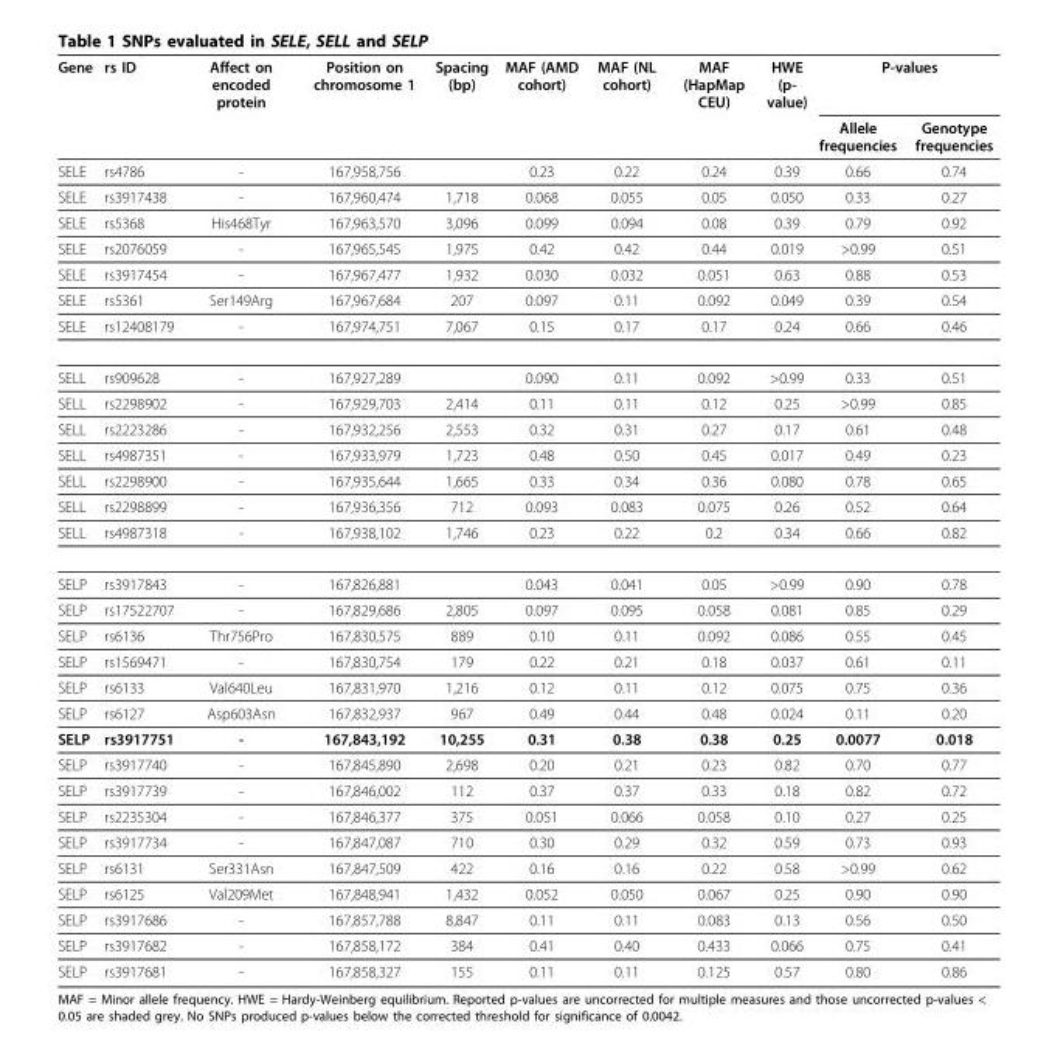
<table><thead><tr><td rowspan="2">Gene</td><td rowspan="2">rs ID</td><td rowspan="2">Affect on encoded protein</td><td rowspan="2">Position on chromosome 1</td><td rowspan="2">Spacing (bp)</td><td rowspan="2">MAF (AMD cohort)</td><td rowspan="2">MAF (NL cohort)</td><td rowspan="2">MAF (HapMap CEU)</td><td rowspan="2">HWE (p- value)</td><td colspan="2">P-values</td></tr><tr><td>Allele frequencies</td><td>Genotype frequencies</td></tr></thead><tbody><tr><td>SELE</td><td>rs4786</td><td>-</td><td>167,958,756</td><td></td><td>0.23</td><td>0.22</td><td>0.24</td><td>0.39</td><td>0.66</td><td>0.74</td></tr><tr><td>SELE</td><td>rs3917438</td><td>-</td><td>167,960,474</td><td>1,718</td><td>0.068</td><td>0.055</td><td>0.05</td><td>0.050</td><td>0.33</td><td>0.27</td></tr><tr><td>SELE</td><td>rs5368</td><td>His468Tyr</td><td>167,963,570</td><td>3,096</td><td>0.099</td><td>0.094</td><td>0.08</td><td>0.39</td><td>0.79</td><td>0.92</td></tr><tr><td>SELE</td><td>rs2076059</td><td>-</td><td>167,965,545</td><td>1,975</td><td>0.42</td><td>0.42</td><td>0.44</td><td>0.019</td><td>&gt;0.99</td><td>0.51</td></tr><tr><td>SELE</td><td>rs3917454</td><td>-</td><td>167,967,477</td><td>1,932</td><td>0.030</td><td>0.032</td><td>0.051</td><td>0.63</td><td>0.88</td><td>0.53</td></tr><tr><td>SELE</td><td>rs5361</td><td>Ser149Arg</td><td>167,967,684</td><td>207</td><td>0.097</td><td>0.11</td><td>0.092</td><td>0.049</td><td>0.39</td><td>0.54</td></tr><tr><td>SELE</td><td>rs12408179</td><td>-</td><td>167,974,751</td><td>7,067</td><td>0.15</td><td>0.17</td><td>0.17</td><td>0.24</td><td>0.66</td><td>0.46</td></tr><tr><td>SELL</td><td>rs909628</td><td>-</td><td>167,927,289</td><td></td><td>0.090</td><td>0.11</td><td>0.092</td><td>&gt;0.99</td><td>0.33</td><td>0.51</td></tr><tr><td>SELL</td><td>rs2298902</td><td>-</td><td>167,929,703</td><td>2,414</td><td>0.11</td><td>0.11</td><td>0.12</td><td>0.25</td><td>&gt;0.99</td><td>0.85</td></tr><tr><td>SELL</td><td>rs2223286</td><td>-</td><td>167,932,256</td><td>2,553</td><td>0.32</td><td>0.31</td><td>0.27</td><td>0.17</td><td>0.61</td><td>0.48</td></tr><tr><td>SELL</td><td>rs4987351</td><td>-</td><td>167,933,979</td><td>1,723</td><td>0.48</td><td>0.50</td><td>0.45</td><td>0.017</td><td>0.49</td><td>0.23</td></tr><tr><td>SELL</td><td>rs2298900</td><td>-</td><td>167,935,644</td><td>1,665</td><td>0.33</td><td>0.34</td><td>0.36</td><td>0.080</td><td>0.78</td><td>0.65</td></tr><tr><td>SELL</td><td>rs2298899</td><td>-</td><td>167,936,356</td><td>712</td><td>0.093</td><td>0.083</td><td>0.075</td><td>0.26</td><td>0.52</td><td>0.64</td></tr><tr><td>SELL</td><td>rs4987318</td><td>-</td><td>167,938,102</td><td>1,746</td><td>0.23</td><td>0.22</td><td>0.2</td><td>0.34</td><td>0.66</td><td>0.82</td></tr><tr><td>SELP</td><td>rs3917843</td><td>-</td><td>167,826,881</td><td></td><td>0.043</td><td>0.041</td><td>0.05</td><td>&gt;0.99</td><td>0.90</td><td>0.78</td></tr><tr><td>SELP</td><td>rs17522707</td><td>-</td><td>167,829,686</td><td>2,805</td><td>0.097</td><td>0.095</td><td>0.058</td><td>0.081</td><td>0.85</td><td>0.29</td></tr><tr><td>SELP</td><td>rs6136</td><td>Thr756Pro</td><td>167,830,575</td><td>889</td><td>0.10</td><td>0.11</td><td>0.092</td><td>0.086</td><td>0.55</td><td>0.45</td></tr><tr><td>SELP</td><td>rs1569471</td><td>-</td><td>167,830,754</td><td>179</td><td>0.22</td><td>0.21</td><td>0.18</td><td>0.037</td><td>0.61</td><td>0.11</td></tr><tr><td>SELP</td><td>rs6133</td><td>Val640Leu</td><td>167,831,970</td><td>1,216</td><td>0.12</td><td>0.11</td><td>0.12</td><td>0.075</td><td>0.75</td><td>0.36</td></tr><tr><td>SELP</td><td>rs6127</td><td>Asp603Asn</td><td>167,832,937</td><td>967</td><td>0.49</td><td>0.44</td><td>0.48</td><td>0.024</td><td>0.11</td><td>0.20</td></tr><tr><td>SELP</td><td>rs3917751</td><td>-</td><td>167,843,192</td><td>10,255</td><td>0.31</td><td>0.38</td><td>0.38</td><td>0.25</td><td>0.0077</td><td>0.018</td></tr><tr><td>SELP</td><td>rs3917740</td><td>-</td><td>167,845,890</td><td>2,698</td><td>0.20</td><td>0.21</td><td>0.23</td><td>0.82</td><td>0.70</td><td>0.77</td></tr><tr><td>SELP</td><td>rs3917739</td><td>-</td><td>167,846,002</td><td>112</td><td>0.37</td><td>0.37</td><td>0.33</td><td>0.18</td><td>0.82</td><td>0.72</td></tr><tr><td>SELP</td><td>rs2235304</td><td>-</td><td>167,846,377</td><td>375</td><td>0.051</td><td>0.066</td><td>0.058</td><td>0.10</td><td>0.27</td><td>0.25</td></tr><tr><td>SELP</td><td>rs3917734</td><td>-</td><td>167,847,087</td><td>710</td><td>0.30</td><td>0.29</td><td>0.32</td><td>0.59</td><td>0.73</td><td>0.93</td></tr><tr><td>SELP</td><td>rs6131</td><td>Ser331Asn</td><td>167,847,509</td><td>422</td><td>0.16</td><td>0.16</td><td>0.22</td><td>0.58</td><td>&gt;0.99</td><td>0.62</td></tr><tr><td>SELP</td><td>rs6125</td><td>Val209Met</td><td>167,848,941</td><td>1,432</td><td>0.052</td><td>0.050</td><td>0.067</td><td>0.25</td><td>0.90</td><td>0.90</td></tr><tr><td>SELP</td><td>rs3917686</td><td>-</td><td>167,857,788</td><td>8,847</td><td>0.11</td><td>0.11</td><td>0.083</td><td>0.13</td><td>0.56</td><td>0.50</td></tr><tr><td>SELP</td><td>rs3917682</td><td>-</td><td>167,858,172</td><td>384</td><td>0.41</td><td>0.40</td><td>0.433</td><td>0.066</td><td>0.75</td><td>0.41</td></tr><tr><td>SELP</td><td>rs3917681</td><td>-</td><td>167,858,327</td><td>155</td><td>0.11</td><td>0.11</td><td>0.125</td><td>0.57</td><td>0.80</td><td>0.86</td></tr></tbody></table>